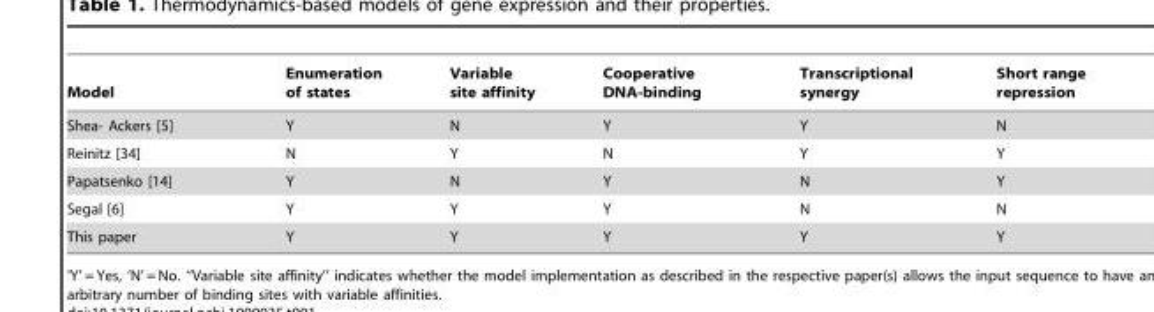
<table><thead><tr><td>Model</td><td>Enumeration of states</td><td>Variable site affinity</td><td>Cooperative DNA-binding</td><td>Transcriptional synergy</td><td>Short range repression</td></tr></thead><tbody><tr><td>Shea- Ackers [5]</td><td>Y</td><td>N</td><td>Y</td><td>Y</td><td>N</td></tr><tr><td>Reinitz [34]</td><td>N</td><td>Y</td><td>N</td><td>Y</td><td>Y</td></tr><tr><td>Papatsenko [14]</td><td>Y</td><td>N</td><td>Y</td><td>N</td><td>Y</td></tr><tr><td>Segal [6]</td><td>Y</td><td>Y</td><td>Y</td><td>N</td><td>N</td></tr><tr><td>This paper</td><td>Y</td><td>Y</td><td>Y</td><td>Y</td><td>Y</td></tr></tbody></table>